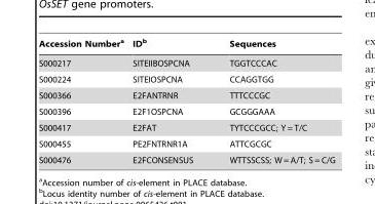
<table><thead><tr><td>Accession Number<sup>a</sup></td><td>ID<sup>b</sup></td><td>Sequences</td></tr></thead><tbody><tr><td>S000217</td><td>SITEIIBOSPCNA</td><td>TGGTCCCAC</td></tr><tr><td>S000224</td><td>SITEIOSPCNA</td><td>CCAGGTGG</td></tr><tr><td>S000366</td><td>E2FANTRNR</td><td>TTTCCCGC</td></tr><tr><td>S000396</td><td>E2F1OSPCNA</td><td>GCGGGAAA</td></tr><tr><td>S000417</td><td>E2FAT</td><td>TYTCCCGCC; Y = T/C</td></tr><tr><td>S000455</td><td>PE2FNTRNR1A</td><td>ATTCGCGC</td></tr><tr><td>S000476</td><td>E2FCONSENSUS</td><td>WTTSSCSS; W = A/T; S = C/G</td></tr></tbody></table>